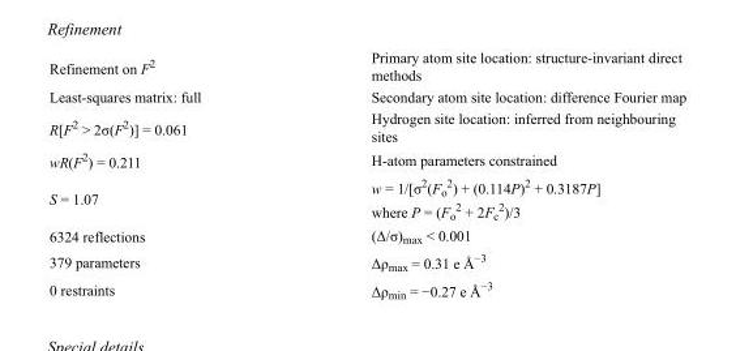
<table><tbody><tr><td>Refinement on F<sup>2</sup></td><td>Primary atom site location: structure-invariant direct methods</td></tr><tr><td>Least-squares matrix: full</td><td>Secondary atom site location: difference Fourier map</td></tr><tr><td>R[F<sup>2</sup> &gt; 2σ(F<sup>2</sup>)] = 0.061</td><td>Hydrogen site location: inferred from neighbouring sites</td></tr><tr><td>wR(F<sup>2</sup>) = 0.211</td><td>H-atom parameters constrained</td></tr><tr><td>S = 1.07</td><td>w = 1/[σ<sup>2</sup>(F<sub>o</sub> <sup>2</sup>) + (0.114P)<sup>2</sup> + 0.3187P] where P = (F<sub>o</sub> <sup>2</sup> + 2F<sub>c</sub> <sup>2</sup>)/3</td></tr><tr><td>6324 reflections</td><td>(Δ/σ)<sub>max</sub> &lt; 0.001</td></tr><tr><td>379 parameters</td><td>Δρ<sub>max</sub> = 0.31 e Å<sup>−3</sup></td></tr><tr><td>0 restraints</td><td>Δρ<sub>min</sub> = −0.27 e Å<sup>−3</sup></td></tr></tbody></table>